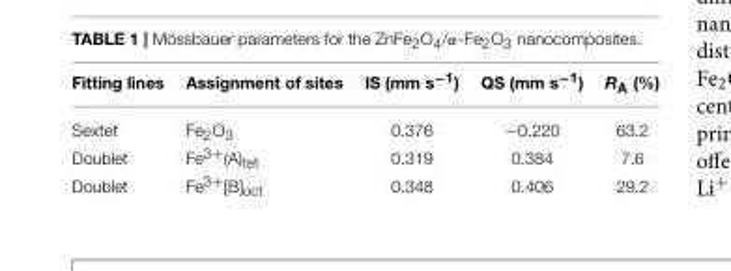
<table><thead><tr><td>Fitting lines</td><td>Assignment of sites</td><td>IS (mm s<sup>−1</sup>)</td><td>QS (mm s<sup>−1</sup>)</td><td>R<sub>A</sub> (%)</td></tr></thead><tbody><tr><td>Sextet</td><td>Fe<sub>2</sub>O<sub>3</sub></td><td>0.376</td><td>−0.220</td><td>63.2</td></tr><tr><td>Doublet</td><td>Fe<sup>3+</sup>(A)<sub>tet</sub></td><td>0.319</td><td>0.384</td><td>7.6</td></tr><tr><td>Doublet</td><td>Fe<sup>3+</sup>[B]<sub>oct</sub></td><td>0.348</td><td>0.406</td><td>29.2</td></tr></tbody></table>